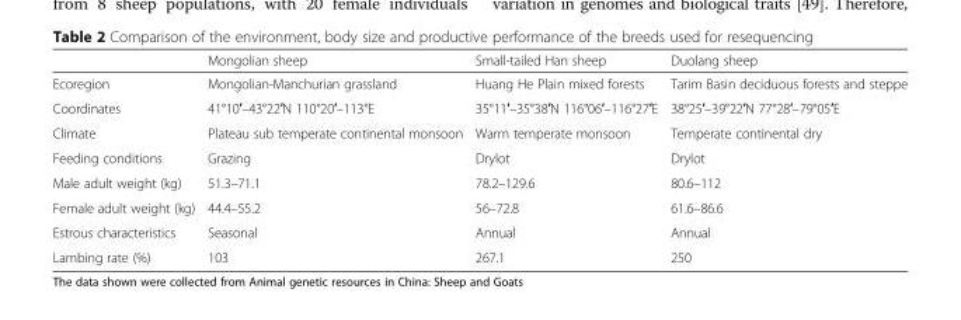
<table><thead><tr><td></td><td>Mongolian sheep</td><td>Small-tailed Han sheep</td><td>Duolang sheep</td></tr></thead><tbody><tr><td>Ecoregion</td><td>Mongolian-Manchurian grassland</td><td>Huang He Plain mixed forests</td><td>Tarim Basin deciduous forests and steppe</td></tr><tr><td>Coordinates</td><td>41°10′–43°22′N 110°20′–113°E</td><td>35°11′–35°38′N 116°06′–116°27′E</td><td>38°25′–39°22′N 77°28′–79°05′E</td></tr><tr><td>Climate</td><td>Plateau sub temperate continental monsoon</td><td>Warm temperate monsoon</td><td>Temperate continental dry</td></tr><tr><td>Feeding conditions</td><td>Grazing</td><td>Drylot</td><td>Drylot</td></tr><tr><td>Male adult weight (kg)</td><td>51.3–71.1</td><td>78.2–129.6</td><td>80.6–112</td></tr><tr><td>Female adult weight (kg)</td><td>44.4–55.2</td><td>56–72.8</td><td>61.6–86.6</td></tr><tr><td>Estrous characteristics</td><td>Seasonal</td><td>Annual</td><td>Annual</td></tr><tr><td>Lambing rate (%)</td><td>103</td><td>267.1</td><td>250</td></tr></tbody></table>